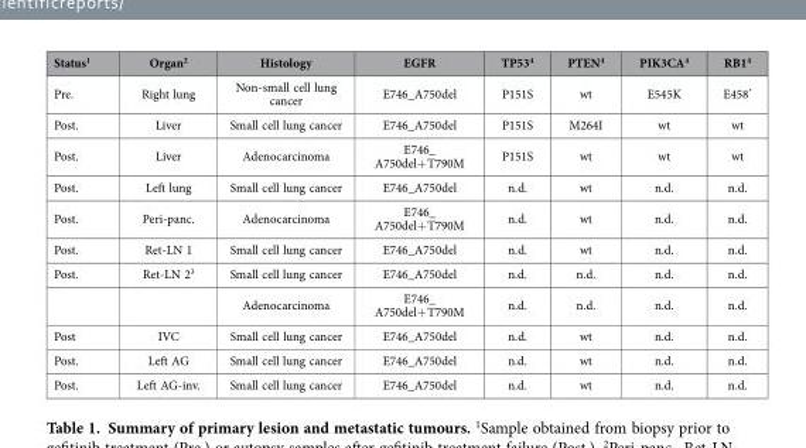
<table><thead><tr><td>Status<sup>1</sup></td><td>Organ<sup>2</sup></td><td>Histology</td><td>EGFR</td><td>TP53<sup>4</sup></td><td>PTEN<sup>4</sup></td><td>PIK3CA<sup>4</sup></td><td>RB1<sup>4</sup></td></tr></thead><tbody><tr><td>Pre.</td><td>Right lung</td><td>Non-small cell lung cancer</td><td>E746_A750del</td><td>P151S</td><td>wt</td><td>E545K</td><td>E458*</td></tr><tr><td>Post.</td><td>Liver</td><td>Small cell lung cancer</td><td>E746_A750del</td><td>P151S</td><td>M264I</td><td>wt</td><td>wt</td></tr><tr><td>Post.</td><td>Liver</td><td>Adenocarcinoma</td><td>E746_ A750del+ T790M</td><td>P151S</td><td>wt</td><td>wt</td><td>wt</td></tr><tr><td>Post.</td><td>Left lung</td><td>Small cell lung cancer</td><td>E746_A750del</td><td>n.d.</td><td>wt</td><td>n.d.</td><td>n.d.</td></tr><tr><td>Post.</td><td>Peri-panc.</td><td>Adenocarcinoma</td><td>E746_ A750del+ T790M</td><td>n.d.</td><td>wt</td><td>n.d.</td><td>n.d.</td></tr><tr><td>Post.</td><td>Ret-LN 1</td><td>Small cell lung cancer</td><td>E746_A750del</td><td>n.d.</td><td>wt</td><td>n.d.</td><td>n.d.</td></tr><tr><td rowspan="2">Post.</td><td>Ret-LN 2<sup>3</sup></td><td>Small cell lung cancer</td><td>E746_A750del</td><td>n.d.</td><td>n.d.</td><td>n.d.</td><td>n.d.</td></tr><tr><td></td><td>Adenocarcinoma</td><td>E746_ A750del+ T790M</td><td>n.d.</td><td>n.d.</td><td>n.d.</td><td>n.d.</td></tr><tr><td>Post</td><td>IVC</td><td>Small cell lung cancer</td><td>E746_A750del</td><td>n.d.</td><td>wt</td><td>n.d.</td><td>n.d.</td></tr><tr><td>Post.</td><td>Left AG</td><td>Small cell lung cancer</td><td>E746_A750del</td><td>n.d.</td><td>wt</td><td>n.d.</td><td>n.d.</td></tr><tr><td>Post.</td><td>Left AG-inv.</td><td>Small cell lung cancer</td><td>E746_A750del</td><td>n.d.</td><td>wt</td><td>n.d.</td><td>n.d.</td></tr></tbody></table>